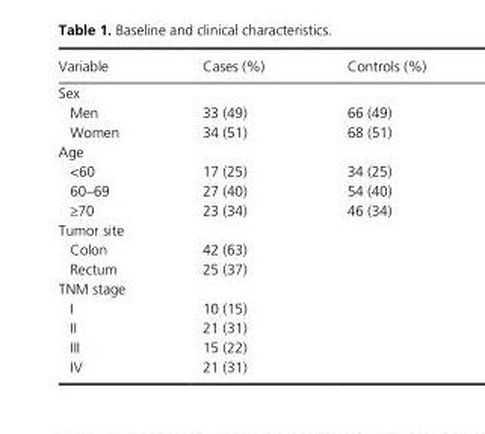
<table><thead><tr><td>Variable</td><td>Cases (%)</td><td>Controls (%)</td></tr></thead><tbody><tr><td colspan="3">Sex</td></tr><tr><td>Men</td><td>33 (49)</td><td>66 (49)</td></tr><tr><td>Women</td><td>34 (51)</td><td>68 (51)</td></tr><tr><td colspan="3">Age</td></tr><tr><td>&lt;60</td><td>17 (25)</td><td>34 (25)</td></tr><tr><td>60–69</td><td>27 (40)</td><td>54 (40)</td></tr><tr><td>≥70</td><td>23 (34)</td><td>46 (34)</td></tr><tr><td colspan="3">Tumor site</td></tr><tr><td>Colon</td><td>42 (63)</td><td></td></tr><tr><td>Rectum</td><td>25 (37)</td><td></td></tr><tr><td colspan="3">TNM stage</td></tr><tr><td>I</td><td>10 (15)</td><td></td></tr><tr><td>II</td><td>21 (31)</td><td></td></tr><tr><td>III</td><td>15 (22)</td><td></td></tr><tr><td>IV</td><td>21 (31)</td><td></td></tr></tbody></table>